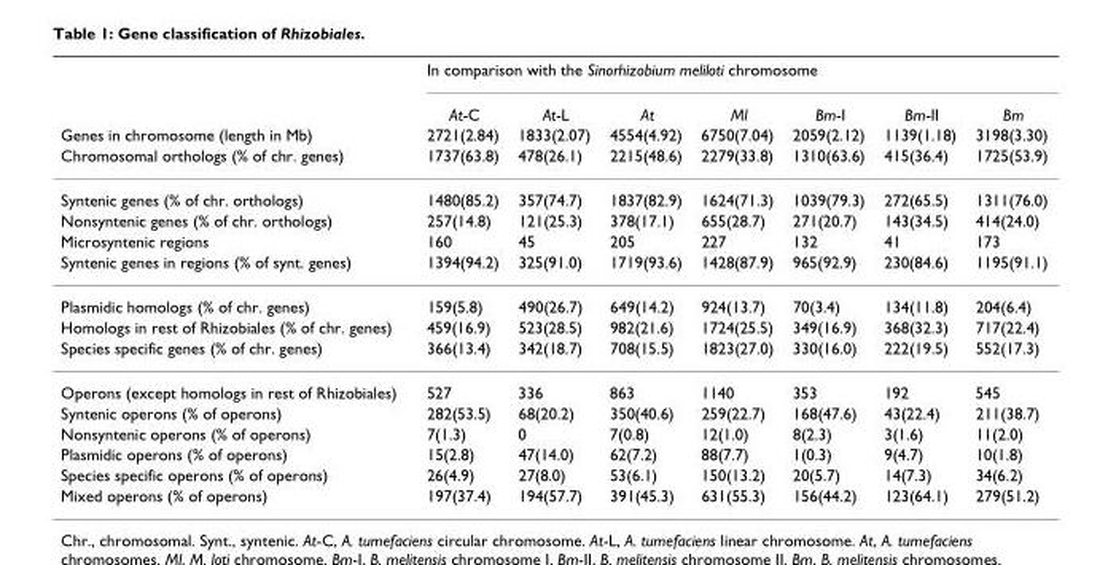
<table><thead><tr><td rowspan="4">Genes in chromosome (length in Mb) Chromosomal orthologs (% of chr. genes)</td><td colspan="7">In comparison with the Sinorhizobium meliloti chromosome</td></tr><tr><td rowspan="3">At-C 2721(2.84) 1737(63.8)</td><td rowspan="3">At-L 1833(2.07) 478(26.1)</td><td rowspan="3">At 4554(4.92) 2215(48.6)</td><td rowspan="3">Ml 6750(7.04) 2279(33.8)</td><td rowspan="3">Bm-I 2059(2.12) 1310(63.6)</td><td rowspan="3">Bm-II 1139(1.18) 415(36.4)</td><td rowspan="3">Bm 3198(3.30) 1725(53.9)</td></tr><tr></tr><tr></tr></thead><tbody><tr><td>Syntenic genes (% of chr. orthologs)</td><td>1480(85.2)</td><td>357(74.7)</td><td>1837(82.9)</td><td>1624(71.3)</td><td>1039(79.3)</td><td>272(65.5)</td><td>1311(76.0)</td></tr><tr><td>Nonsyntenic genes (% of chr. orthologs)</td><td>257(14.8)</td><td>121(25.3)</td><td>378(17.1)</td><td>655(28.7)</td><td>271(20.7)</td><td>143(34.5)</td><td>414(24.0)</td></tr><tr><td>Microsyntenic regions</td><td>160</td><td>45</td><td>205</td><td>227</td><td>132</td><td>41</td><td>173</td></tr><tr><td>Syntenic genes in regions (% of synt. genes)</td><td>1394(94.2)</td><td>325(91.0)</td><td>1719(93.6)</td><td>1428(87.9)</td><td>965(92.9)</td><td>230(84.6)</td><td>1195(91.1)</td></tr><tr><td>Plasmidic homologs (% of chr. genes)</td><td>159(5.8)</td><td>490(26.7)</td><td>649(14.2)</td><td>924(13.7)</td><td>70(3.4)</td><td>134(11.8)</td><td>204(6.4)</td></tr><tr><td>Homologs in rest of Rhizobiales (% of chr. genes)</td><td>459(16.9)</td><td>523(28.5)</td><td>982(21.6)</td><td>1724(25.5)</td><td>349(16.9)</td><td>368(32.3)</td><td>717(22.4)</td></tr><tr><td>Species specific genes (% of chr. genes)</td><td>366(13.4)</td><td>342(18.7)</td><td>708(15.5)</td><td>1823(27.0)</td><td>330(16.0)</td><td>222(19.5)</td><td>552(17.3)</td></tr><tr><td>Operons (except homologs in rest of Rhizobiales)</td><td>527</td><td>336</td><td>863</td><td>1140</td><td>353</td><td>192</td><td>545</td></tr><tr><td>Syntenic operons (% of operons)</td><td>282(53.5)</td><td>68(20.2)</td><td>350(40.6)</td><td>259(22.7)</td><td>168(47.6)</td><td>43(22.4)</td><td>211(38.7)</td></tr><tr><td>Nonsyntenic operons (% of operons)</td><td>7(1.3)</td><td>0</td><td>7(0.8)</td><td>12(1.0)</td><td>8(2.3)</td><td>3(1.6)</td><td>11(2.0)</td></tr><tr><td>Plasmidic operons (% of operons)</td><td>15(2.8)</td><td>47(14.0)</td><td>62(7.2)</td><td>88(7.7)</td><td>1(0.3)</td><td>9(4.7)</td><td>10(1.8)</td></tr><tr><td>Species specific operons (% of operons)</td><td>26(4.9)</td><td>27(8.0)</td><td>53(6.1)</td><td>150(13.2)</td><td>20(5.7)</td><td>14(7.3)</td><td>34(6.2)</td></tr><tr><td>Mixed operons (% of operons)</td><td>197(37.4)</td><td>194(57.7)</td><td>391(45.3)</td><td>631(55.3)</td><td>156(44.2)</td><td>123(64.1)</td><td>279(51.2)</td></tr></tbody></table>